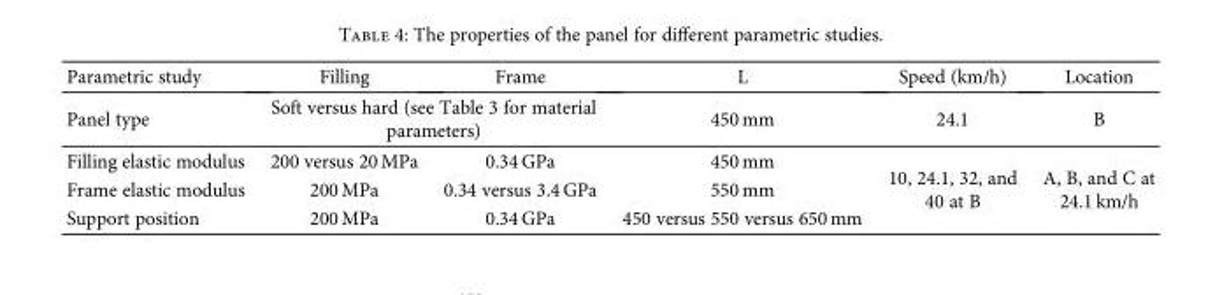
<table><thead><tr><td>Parametric study</td><td>Filling</td><td>Frame</td><td>L</td><td>Speed (km/h)</td><td>Location</td></tr></thead><tbody><tr><td>Panel type</td><td colspan="2">Soft versus hard (see Table 3 for material parameters)</td><td>450 mm</td><td>24.1</td><td>B</td></tr><tr><td>Filling elastic modulus</td><td>200 versus 20 MPa</td><td>0.34 GPa</td><td>450 mm</td><td rowspan="3">10, 24.1, 32, and 40 at B</td><td rowspan="3">A, B, and C at 24.1 km/h</td></tr><tr><td>Frame elastic modulus</td><td>200 MPa</td><td>0.34 versus 3.4 GPa</td><td>550 mm</td></tr><tr><td>Support position</td><td>200 MPa</td><td>0.34 GPa</td><td>450 versus 550 versus 650 mm</td></tr></tbody></table>